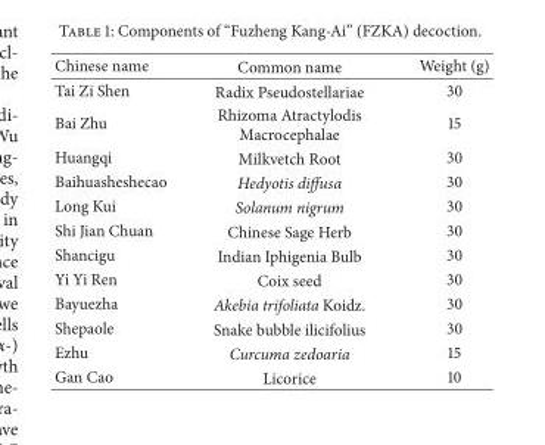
<table><thead><tr><td>Chinese name</td><td>Common name</td><td>Weight (g)</td></tr></thead><tbody><tr><td>Tai Zi Shen</td><td>Radix Pseudostellariae</td><td>30</td></tr><tr><td>Bai Zhu</td><td>Rhizoma Atractylodis Macrocephalae</td><td>15</td></tr><tr><td>Huangqi</td><td>Milkvetch Root</td><td>30</td></tr><tr><td>Baihuasheshecao</td><td>Hedyotis diffusa</td><td>30</td></tr><tr><td>Long Kui</td><td>Solanum nigrum</td><td>30</td></tr><tr><td>Shi Jian Chuan</td><td>Chinese Sage Herb</td><td>30</td></tr><tr><td>Shancigu</td><td>Indian Iphigenia Bulb</td><td>30</td></tr><tr><td>Yi Yi Ren</td><td>Coix seed</td><td>30</td></tr><tr><td>Bayuezha</td><td>Akebia trifoliata Koidz.</td><td>30</td></tr><tr><td>Shepaole</td><td>Snake bubble ilicifolius</td><td>30</td></tr><tr><td>Ezhu</td><td>Curcuma zedoaria</td><td>15</td></tr><tr><td>Gan Cao</td><td>Licorice</td><td>10</td></tr></tbody></table>